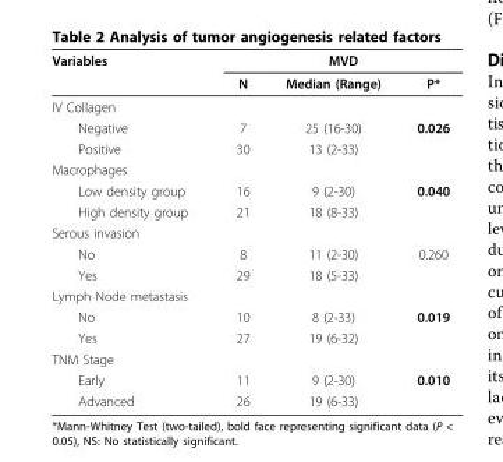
<table><thead><tr><td rowspan="2">Variables</td><td colspan="3">MVD</td></tr><tr><td>N</td><td>Median (Range)</td><td>P*</td></tr></thead><tbody><tr><td colspan="4">IV Collagen</td></tr><tr><td>Negative</td><td>7</td><td>25 (16-30)</td><td>0.026</td></tr><tr><td>Positive</td><td>30</td><td>13 (2-33)</td><td></td></tr><tr><td colspan="4">Macrophages</td></tr><tr><td>Low density group</td><td>16</td><td>9 (2-30)</td><td>0.040</td></tr><tr><td>High density group</td><td>21</td><td>18 (8-33)</td><td></td></tr><tr><td colspan="4">Serous invasion</td></tr><tr><td>No</td><td>8</td><td>11 (2-30)</td><td>0.260</td></tr><tr><td>Yes</td><td>29</td><td>18 (5-33)</td><td></td></tr><tr><td colspan="4">Lymph Node metastasis</td></tr><tr><td>No</td><td>10</td><td>8 (2-33)</td><td>0.019</td></tr><tr><td>Yes</td><td>27</td><td>19 (6-32)</td><td></td></tr><tr><td colspan="4">TNM Stage</td></tr><tr><td>Early</td><td>11</td><td>9 (2-30)</td><td>0.010</td></tr><tr><td>Advanced</td><td>26</td><td>19 (6-33)</td><td></td></tr></tbody></table>